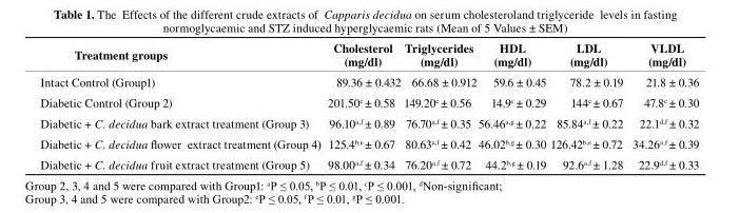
<table><thead><tr><td>treatment groups</td><td>cholesterol (mg/dl)</td><td>triglycerides (mg/dl)</td><td>HDL (mg/dl)</td><td>LDL (mg/dl)</td><td>VLDL (mg/dl)</td></tr></thead><tbody><tr><td>Intact Control (Group1)</td><td>89.36 ± 0.432</td><td>66.68 ± 0.912</td><td>59.6 ± 0.45</td><td>78.2 ± 0.19</td><td>21.8 ± 0.36</td></tr><tr><td>Diabetic Control (Group 2)</td><td>201.50<sup>c</sup> ± 0.58</td><td>149.20<sup>c</sup> ± 0.56</td><td>14.9<sup>c</sup> ± 0.29</td><td>144<sup>c</sup> ± 0.67</td><td>47.8<sup>c</sup> ± 0.30</td></tr><tr><td>Diabetic + C. decidua bark extract treatment (Group 3)</td><td>96.10<sup>a</sup>,<sup>f</sup> ± 0.89</td><td>76.70<sup>a</sup>,<sup>f</sup> ± 0.35</td><td>56.46<sup>a</sup>,<sup>g</sup> ± 0.22</td><td>85.84<sup>a</sup>,<sup>f</sup> ± 0.22</td><td>22.1<sup>d</sup>,<sup>f</sup> ± 0.32</td></tr><tr><td>Diabetic + C. decidua flower extract treatment (Group 4)</td><td>125.4<sup>b</sup>,<sup>e</sup> ± 0.67</td><td>80.63<sup>a</sup>,<sup>f</sup> ± 0.42</td><td>46.02<sup>b</sup>,<sup>g</sup> ± 0.30</td><td>126.42<sup>b</sup>,<sup>e</sup> ± 0.72</td><td>34.26<sup>a</sup>,<sup>f</sup> ± 0.39</td></tr><tr><td>Diabetic + C. decidua fruit extract treatment (Group 5)</td><td>98.00<sup>a</sup>,<sup>f</sup> ± 0.34</td><td>76.20<sup>a</sup>,<sup>f</sup> ± 0.72</td><td>44.2<sup>b</sup>,<sup>g</sup> ± 0.19</td><td>92.6<sup>a</sup>,<sup>f</sup> ± 1.28</td><td>22.9<sup>d</sup>,<sup>f</sup> ± 0.33</td></tr></tbody></table>